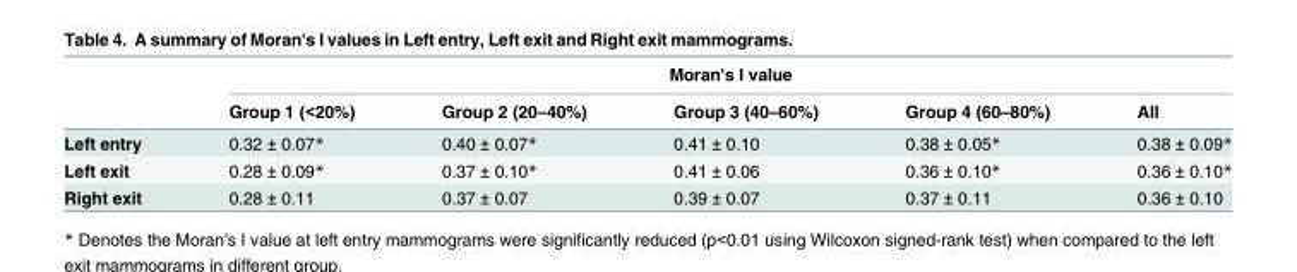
<table><thead><tr><td rowspan="2"></td><td colspan="5">Moran&#x27;s I value</td></tr><tr><td>Group 1 (&lt;20%)</td><td>Group 2 (20–40%)</td><td>Group 3 (40–60%)</td><td>Group 4 (60–80%)</td><td>All</td></tr></thead><tbody><tr><td>Left entry</td><td>0.32 ± 0.07*</td><td>0.40 ± 0.07*</td><td>0.41 ± 0.10</td><td>0.38 ± 0.05*</td><td>0.38 ± 0.09*</td></tr><tr><td>Left exit</td><td>0.28 ± 0.09*</td><td>0.37 ± 0.10*</td><td>0.41 ± 0.06</td><td>0.36 ± 0.10*</td><td>0.36 ± 0.10*</td></tr><tr><td>Right exit</td><td>0.28 ± 0.11</td><td>0.37 ± 0.07</td><td>0.39 ± 0.07</td><td>0.37 ± 0.11</td><td>0.36 ± 0.10</td></tr></tbody></table>